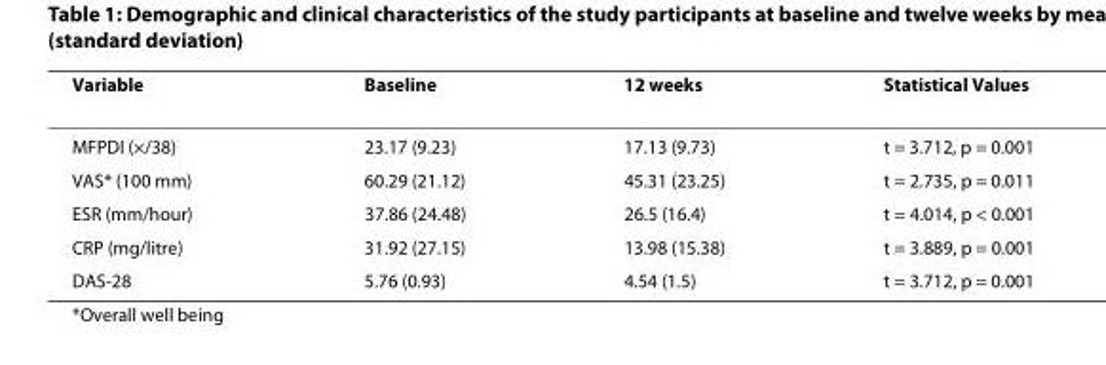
<table><thead><tr><td>Variable</td><td>Baseline</td><td>12 weeks</td><td>Statistical Values</td></tr></thead><tbody><tr><td>MFPDI (×/38)</td><td>23.17 (9.23)</td><td>17.13 (9.73)</td><td>t = 3.712, p = 0.001</td></tr><tr><td>VAS* (100 mm)</td><td>60.29 (21.12)</td><td>45.31 (23.25)</td><td>t = 2.735, p = 0.011</td></tr><tr><td>ESR (mm/hour)</td><td>37.86 (24.48)</td><td>26.5 (16.4)</td><td>t = 4.014, p &lt; 0.001</td></tr><tr><td>CRP (mg/litre)</td><td>31.92 (27.15)</td><td>13.98 (15.38)</td><td>t = 3.889, p = 0.001</td></tr><tr><td>DAS-28</td><td>5.76 (0.93)</td><td>4.54 (1.5)</td><td>t = 3.712, p = 0.001</td></tr></tbody></table>